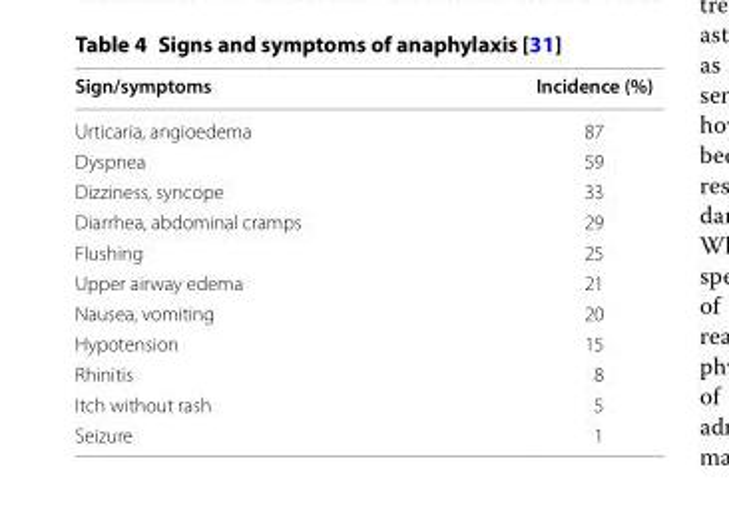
<table><thead><tr><td>Sign/symptoms</td><td>Incidence (%)</td></tr></thead><tbody><tr><td>Urticaria, angioedema</td><td>87</td></tr><tr><td>Dyspnea</td><td>59</td></tr><tr><td>Dizziness, syncope</td><td>33</td></tr><tr><td>Diarrhea, abdominal cramps</td><td>29</td></tr><tr><td>Flushing</td><td>25</td></tr><tr><td>Upper airway edema</td><td>21</td></tr><tr><td>Nausea, vomiting</td><td>20</td></tr><tr><td>Hypotension</td><td>15</td></tr><tr><td>Rhinitis</td><td>8</td></tr><tr><td>Itch without rash</td><td>5</td></tr><tr><td>Seizure</td><td>1</td></tr></tbody></table>